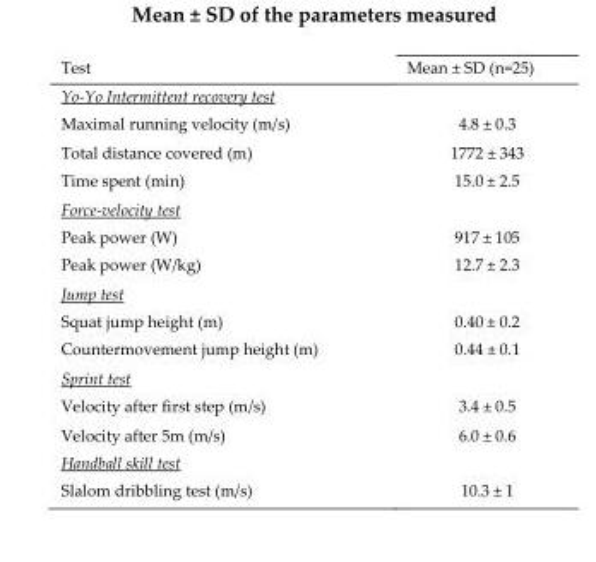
<table><thead><tr><td>Test</td><td>Mean ± SD (n=25)</td></tr></thead><tbody><tr><td colspan="2">Yo-Yo Intermittent recovery test</td></tr><tr><td>Maximal running velocity (m/s)</td><td>4.8 ± 0.3</td></tr><tr><td>Total distance covered (m)</td><td>1772 ± 343</td></tr><tr><td>Time spent (min)</td><td>15.0 ± 2.5</td></tr><tr><td colspan="2">Force-velocity test</td></tr><tr><td>Peak power (W)</td><td>917 ± 105</td></tr><tr><td>Peak power (W/kg)</td><td>12.7 ± 2.3</td></tr><tr><td colspan="2">Jump test</td></tr><tr><td>Squat jump height (m)</td><td>0.40 ± 0.2</td></tr><tr><td>Countermovement jump height (m)</td><td>0.44 ± 0.1</td></tr><tr><td colspan="2">Sprint test</td></tr><tr><td>Velocity after first step (m/s)</td><td>3.4 ± 0.5</td></tr><tr><td>Velocity after 5m (m/s)</td><td>6.0 ± 0.6</td></tr><tr><td colspan="2">Handball skill test</td></tr><tr><td>Slalom dribbling test (m/s)</td><td>10.3 ± 1</td></tr></tbody></table>